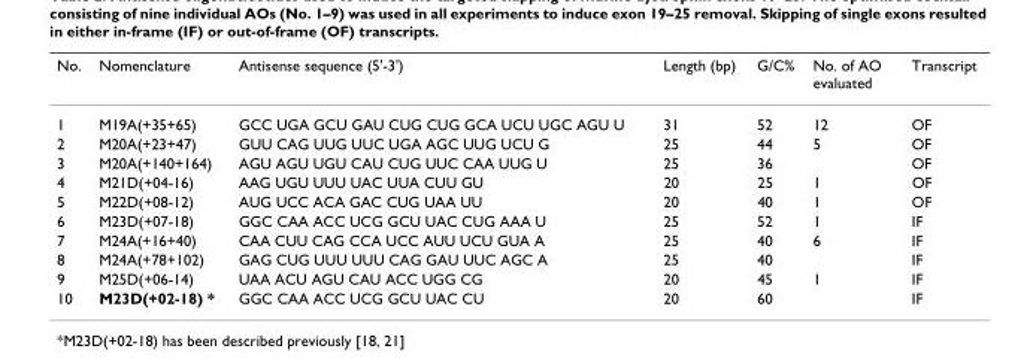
<table><thead><tr><td>No.</td><td>Nomenclature</td><td>Antisense sequence (5&#x27;-3&#x27;)</td><td>Length (bp)</td><td>G/C%</td><td>No. of AO evaluated</td><td>Transcript</td></tr></thead><tbody><tr><td>1</td><td>M19A(+35+65)</td><td>GCC UGA GCU GAU CUG CUG GCA UCU UGC AGU U</td><td>31</td><td>52</td><td>12</td><td>OF</td></tr><tr><td>2</td><td>M20A(+23+47)</td><td>GUU CAG UUG UUC UGA AGC UUG UCU G</td><td>25</td><td>44</td><td>5</td><td>OF</td></tr><tr><td>3</td><td>M20A(+140+164)</td><td>AGU AGU UGU CAU CUG UUC CAA UUG U</td><td>25</td><td>36</td><td></td><td>OF</td></tr><tr><td>4</td><td>M21D(+04-16)</td><td>AAG UGU UUU UAC UUA CUU GU</td><td>20</td><td>25</td><td>1</td><td>OF</td></tr><tr><td>5</td><td>M22D(+08-12)</td><td>AUG UCC ACA GAC CUG UAA UU</td><td>20</td><td>40</td><td>1</td><td>OF</td></tr><tr><td>6</td><td>M23D(+07-18)</td><td>GGC CAA ACC UCG GCU UAC CUG AAA U</td><td>25</td><td>52</td><td>1</td><td>IF</td></tr><tr><td>7</td><td>M24A(+16+40)</td><td>CAA CUU CAG CCA UCC AUU UCU GUA A</td><td>25</td><td>40</td><td>6</td><td>IF</td></tr><tr><td>8</td><td>M24A(+78+102)</td><td>GAG CUG UUU UUU CAG GAU UUC AGC A</td><td>25</td><td>40</td><td></td><td>IF</td></tr><tr><td>9</td><td>M25D(+06-14)</td><td>UAA ACU AGU CAU ACC UGG CG</td><td>20</td><td>45</td><td>1</td><td>IF</td></tr><tr><td>10</td><td>M23D(+02-18) *</td><td>GGC CAA ACC UCG GCU UAC CU</td><td>20</td><td>60</td><td></td><td>IF</td></tr></tbody></table>